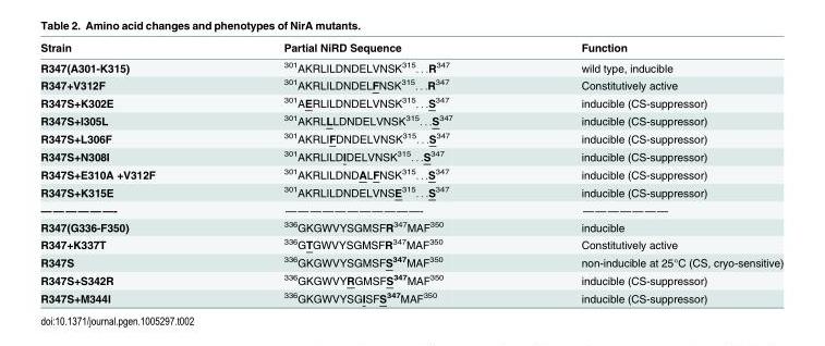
<table><thead><tr><td>Strain</td><td>Partial NiRD Sequence</td><td>Function</td></tr></thead><tbody><tr><td>R347(A301-K315)</td><td><sup>301</sup>AKRLILDNDELVNSK<sup>315</sup>. . .R<sup>347</sup></td><td>wild type, inducible</td></tr><tr><td>R347+V312F</td><td><sup>301</sup>AKRLILDNDELFNSK<sup>315</sup>. . .R<sup>347</sup></td><td>Constitutively active</td></tr><tr><td>R347S+K302E</td><td><sup>301</sup>AERLILDNDELVNSK<sup>315</sup>. . .S<sup>347</sup></td><td>inducible (CS-suppressor)</td></tr><tr><td>R347S+I305L</td><td><sup>301</sup>AKRLLLDNDELVNSK<sup>315</sup>. . .S<sup>347</sup></td><td>inducible (CS-suppressor)</td></tr><tr><td>R347S+L306F</td><td><sup>301</sup>AKRLIFDNDELVNSK<sup>315</sup>. . .S<sup>347</sup></td><td>inducible (CS-suppressor)</td></tr><tr><td>R347S+N308I</td><td><sup>301</sup>AKRLILDIDELVNSK<sup>315</sup>. . .S<sup>347</sup></td><td>inducible (CS-suppressor)</td></tr><tr><td>R347S+E310A +V312F</td><td><sup>301</sup>AKRLILDNDALFNSK<sup>315</sup>. . .S<sup>347</sup></td><td>inducible (CS-suppressor)</td></tr><tr><td>R347S+K315E</td><td><sup>301</sup>AKRLILDNDELVNSE<sup>315</sup>. . .S<sup>347</sup></td><td>inducible (CS-suppressor)</td></tr><tr><td>——————-</td><td>———————————-</td><td>———————</td></tr><tr><td>R347(G336-F350)</td><td><sup>336</sup>GKGWVYSGMSFR<sup>347</sup>MAF<sup>350</sup></td><td>inducible</td></tr><tr><td>R347+K337T</td><td><sup>336</sup>GTGWVYSGMSFR<sup>347</sup>MAF<sup>350</sup></td><td>Constitutively active</td></tr><tr><td>R347S</td><td><sup>336</sup>GKGWVYSGMSFS<sup>347</sup>MAF<sup>350</sup></td><td>non-inducible at 25°C (CS, cryo-sensitive)</td></tr><tr><td>R347S+S342R</td><td><sup>336</sup>GKGWVYRGMSFS<sup>347</sup>MAF<sup>350</sup></td><td>inducible (CS-suppressor)</td></tr><tr><td>R347S+M344I</td><td><sup>336</sup>GKGWVYSGISFS<sup>347</sup>MAF<sup>350</sup></td><td>inducible (CS-suppressor)</td></tr></tbody></table>